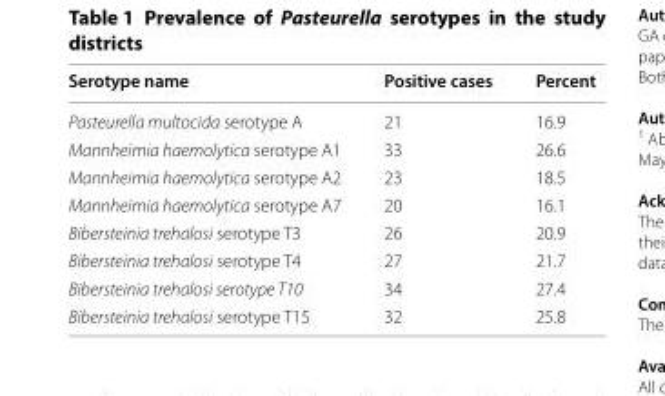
<table><thead><tr><td>Serotype name</td><td>Positive cases</td><td>Percent</td></tr></thead><tbody><tr><td>Pasteurella multocida serotype A</td><td>21</td><td>16.9</td></tr><tr><td>Mannheimia haemolytica serotype A1</td><td>33</td><td>26.6</td></tr><tr><td>Mannheimia haemolytica serotype A2</td><td>23</td><td>18.5</td></tr><tr><td>Mannheimia haemolytica serotype A7</td><td>20</td><td>16.1</td></tr><tr><td>Bibersteinia trehalosi serotype T3</td><td>26</td><td>20.9</td></tr><tr><td>Bibersteinia trehalosi serotype T4</td><td>27</td><td>21.7</td></tr><tr><td>Bibersteinia trehalosi serotype T10</td><td>34</td><td>27.4</td></tr><tr><td>Bibersteinia trehalosi serotype T15</td><td>32</td><td>25.8</td></tr></tbody></table>